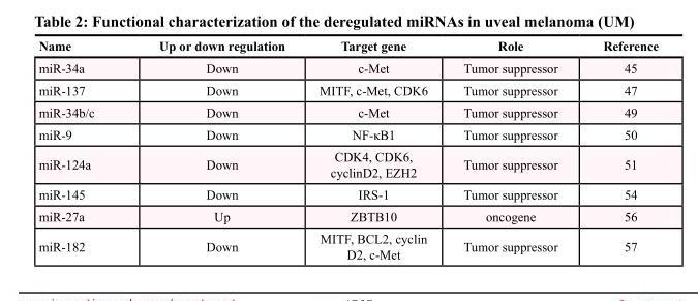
<table><thead><tr><td>Name</td><td>Up or down regulation</td><td>Target gene</td><td>Role</td><td>Reference</td></tr></thead><tbody><tr><td>miR-34a</td><td>Down</td><td>c-Met</td><td>Tumor suppressor</td><td>45</td></tr><tr><td>miR-137</td><td>Down</td><td>MITF, c-Met, CDK6</td><td>Tumor suppressor</td><td>47</td></tr><tr><td>miR-34b/c</td><td>Down</td><td>c-Met</td><td>Tumor suppressor</td><td>49</td></tr><tr><td>miR-9</td><td>Down</td><td>NF-κB1</td><td>Tumor suppressor</td><td>50</td></tr><tr><td>miR-124a</td><td>Down</td><td>CDK4, CDK6, cyclinD2, EZH2</td><td>Tumor suppressor</td><td>51</td></tr><tr><td>miR-145</td><td>Down</td><td>IRS-1</td><td>Tumor suppressor</td><td>54</td></tr><tr><td>miR-27a</td><td>Up</td><td>ZBTB10</td><td>oncogene</td><td>56</td></tr><tr><td>miR-182</td><td>Down</td><td>MITF, BCL2, cyclin D2, c-Met</td><td>Tumor suppressor</td><td>57</td></tr></tbody></table>